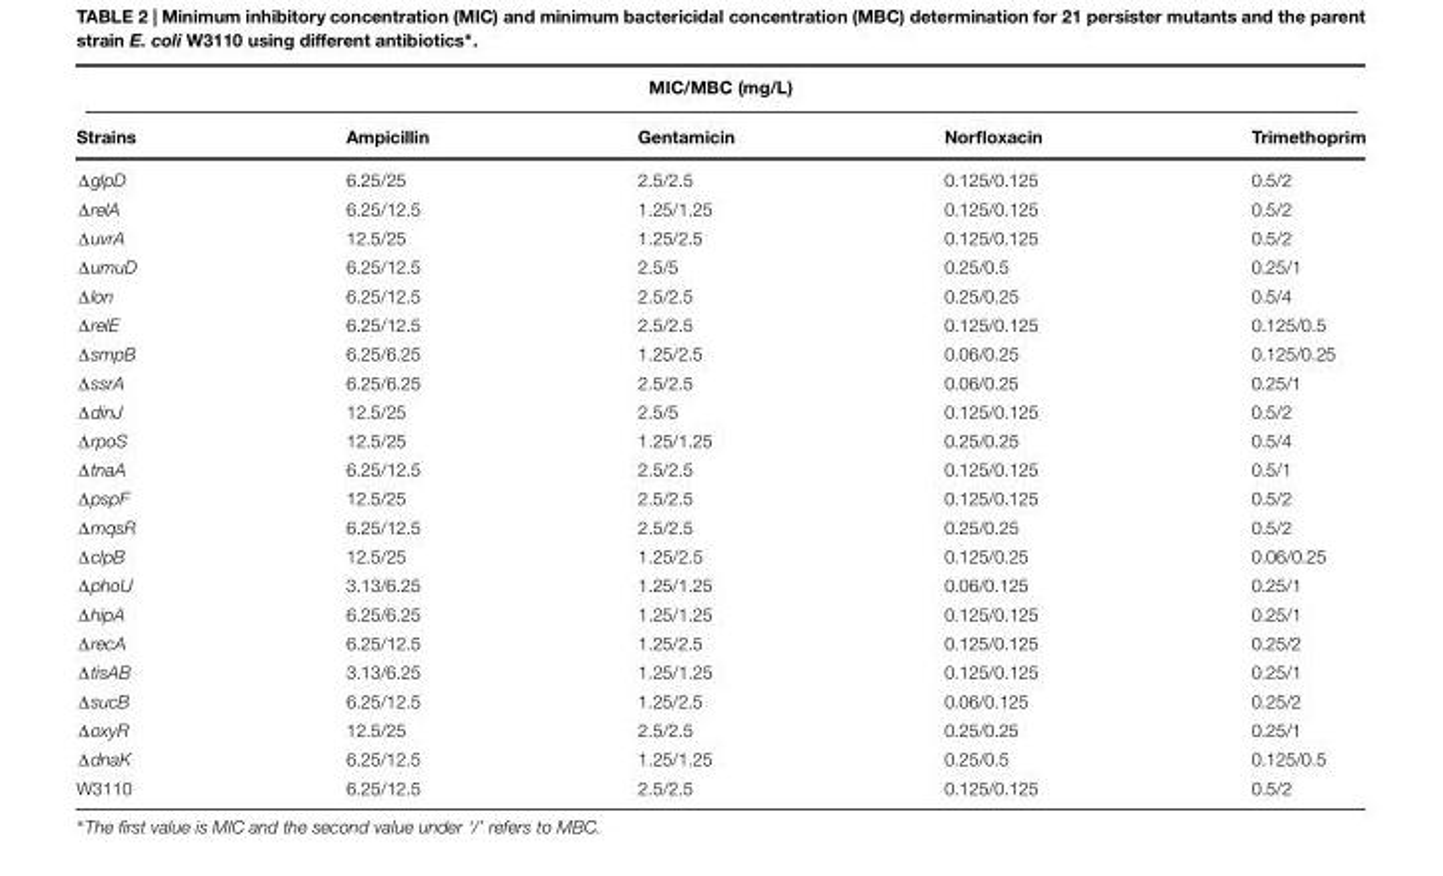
<table><thead><tr><td colspan="5">MIC/MBC (mg/L)</td></tr><tr><td>Strains</td><td>Ampicillin</td><td>Gentamicin</td><td>Norfloxacin</td><td>Trimethoprim</td></tr></thead><tbody><tr><td>ΔglpD</td><td>6.25/25</td><td>2.5/2.5</td><td>0.125/0.125</td><td>0.5/2</td></tr><tr><td>ΔrelA</td><td>6.25/12.5</td><td>1.25/1.25</td><td>0.125/0.125</td><td>0.5/2</td></tr><tr><td>ΔuvrA</td><td>12.5/25</td><td>1.25/2.5</td><td>0.125/0.125</td><td>0.5/2</td></tr><tr><td>ΔumuD</td><td>6.25/12.5</td><td>2.5/5</td><td>0.25/0.5</td><td>0.25/1</td></tr><tr><td>Δlon</td><td>6.25/12.5</td><td>2.5/2.5</td><td>0.25/0.25</td><td>0.5/4</td></tr><tr><td>ΔrelE</td><td>6.25/12.5</td><td>2.5/2.5</td><td>0.125/0.125</td><td>0.125/0.5</td></tr><tr><td>ΔsmpB</td><td>6.25/6.25</td><td>1.25/2.5</td><td>0.06/0.25</td><td>0.125/0.25</td></tr><tr><td>ΔssrA</td><td>6.25/6.25</td><td>2.5/2.5</td><td>0.06/0.25</td><td>0.25/1</td></tr><tr><td>ΔdinJ</td><td>12.5/25</td><td>2.5/5</td><td>0.125/0.125</td><td>0.5/2</td></tr><tr><td>ΔrpoS</td><td>12.5/25</td><td>1.25/1.25</td><td>0.25/0.25</td><td>0.5/4</td></tr><tr><td>ΔtnaA</td><td>6.25/12.5</td><td>2.5/2.5</td><td>0.125/0.125</td><td>0.5/1</td></tr><tr><td>ΔpspF</td><td>12.5/25</td><td>2.5/2.5</td><td>0.125/0.125</td><td>0.5/2</td></tr><tr><td>ΔmqsR</td><td>6.25/12.5</td><td>2.5/2.5</td><td>0.25/0.25</td><td>0.5/2</td></tr><tr><td>ΔclpB</td><td>12.5/25</td><td>1.25/2.5</td><td>0.125/0.25</td><td>0.06/0.25</td></tr><tr><td>ΔphoU</td><td>3.13/6.25</td><td>1.25/1.25</td><td>0.06/0.125</td><td>0.25/1</td></tr><tr><td>ΔhipA</td><td>6.25/6.25</td><td>1.25/1.25</td><td>0.125/0.125</td><td>0.25/1</td></tr><tr><td>ΔrecA</td><td>6.25/12.5</td><td>1.25/2.5</td><td>0.125/0.125</td><td>0.25/2</td></tr><tr><td>ΔtisAB</td><td>3.13/6.25</td><td>1.25/1.25</td><td>0.125/0.125</td><td>0.25/1</td></tr><tr><td>ΔsucB</td><td>6.25/12.5</td><td>1.25/2.5</td><td>0.06/0.125</td><td>0.25/2</td></tr><tr><td>ΔoxyR</td><td>12.5/25</td><td>2.5/2.5</td><td>0.25/0.25</td><td>0.25/1</td></tr><tr><td>ΔdnaK</td><td>6.25/12.5</td><td>1.25/1.25</td><td>0.25/0.5</td><td>0.125/0.5</td></tr><tr><td>W3110</td><td>6.25/12.5</td><td>2.5/2.5</td><td>0.125/0.125</td><td>0.5/2</td></tr></tbody></table>